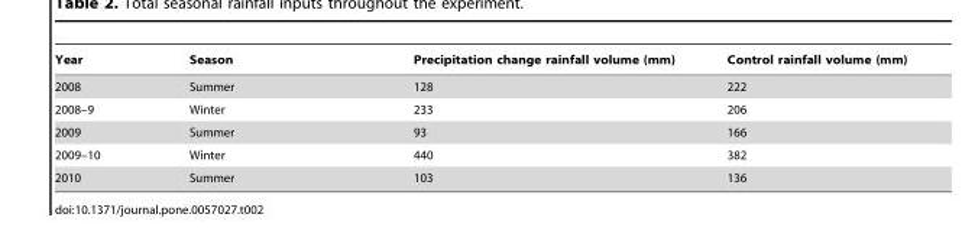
<table><thead><tr><td>Year</td><td>Season</td><td>Precipitation change rainfall volume (mm)</td><td>Control rainfall volume (mm)</td></tr></thead><tbody><tr><td>2008</td><td>Summer</td><td>128</td><td>222</td></tr><tr><td>2008–9</td><td>Winter</td><td>233</td><td>206</td></tr><tr><td>2009</td><td>Summer</td><td>93</td><td>166</td></tr><tr><td>2009–10</td><td>Winter</td><td>440</td><td>382</td></tr><tr><td>2010</td><td>Summer</td><td>103</td><td>136</td></tr></tbody></table>